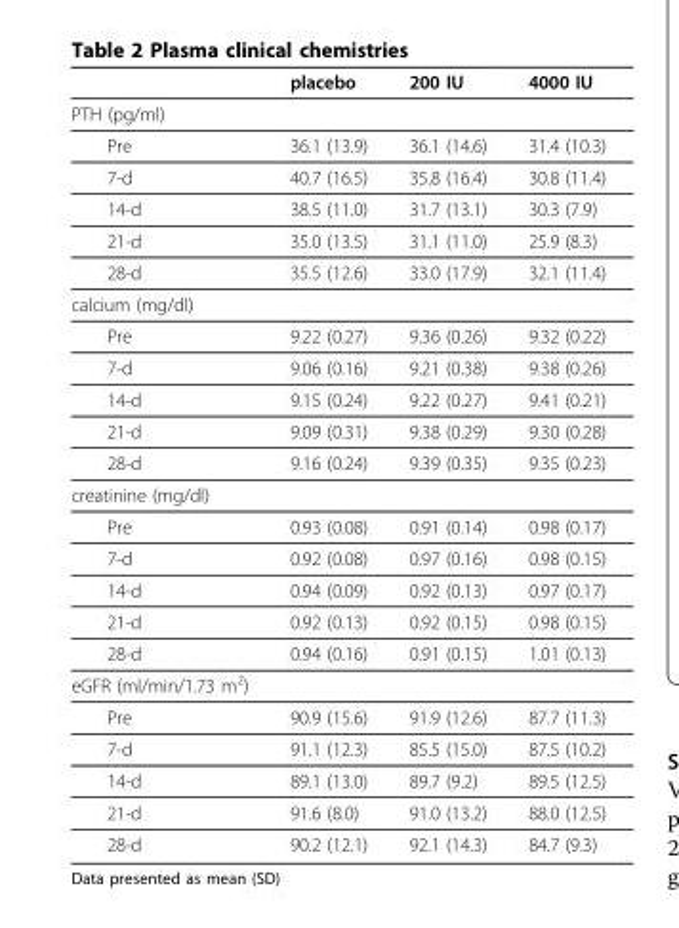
<table><thead><tr><td></td><td>placebo</td><td>200 IU</td><td>4000 IU</td></tr></thead><tbody><tr><td colspan="4">PTH (pg/ml)</td></tr><tr><td>Pre</td><td>36.1 (13.9)</td><td>36.1 (14.6)</td><td>31.4 (10.3)</td></tr><tr><td>7-d</td><td>40.7 (16.5)</td><td>35.8 (16.4)</td><td>30.8 (11.4)</td></tr><tr><td>14-d</td><td>38.5 (11.0)</td><td>31.7 (13.1)</td><td>30.3 (7.9)</td></tr><tr><td>21-d</td><td>35.0 (13.5)</td><td>31.1 (11.0)</td><td>25.9 (8.3)</td></tr><tr><td>28-d</td><td>35.5 (12.6)</td><td>33.0 (17.9)</td><td>32.1 (11.4)</td></tr><tr><td colspan="4">calcium (mg/dl)</td></tr><tr><td>Pre</td><td>9.22 (0.27)</td><td>9.36 (0.26)</td><td>9.32 (0.22)</td></tr><tr><td>7-d</td><td>9.06 (0.16)</td><td>9.21 (0.38)</td><td>9.38 (0.26)</td></tr><tr><td>14-d</td><td>9.15 (0.24)</td><td>9.22 (0.27)</td><td>9.41 (0.21)</td></tr><tr><td>21-d</td><td>9.09 (0.31)</td><td>9.38 (0.29)</td><td>9.30 (0.28)</td></tr><tr><td>28-d</td><td>9.16 (0.24)</td><td>9.39 (0.35)</td><td>9.35 (0.23)</td></tr><tr><td colspan="4">creatinine (mg/dl)</td></tr><tr><td>Pre</td><td>0.93 (0.08)</td><td>0.91 (0.14)</td><td>0.98 (0.17)</td></tr><tr><td>7-d</td><td>0.92 (0.08)</td><td>0.97 (0.16)</td><td>0.98 (0.15)</td></tr><tr><td>14-d</td><td>0.94 (0.09)</td><td>0.92 (0.13)</td><td>0.97 (0.17)</td></tr><tr><td>21-d</td><td>0.92 (0.13)</td><td>0.92 (0.15)</td><td>0.98 (0.15)</td></tr><tr><td>28-d</td><td>0.94 (0.16)</td><td>0.91 (0.15)</td><td>1.01 (0.13)</td></tr><tr><td colspan="4">eGFR (ml/min/1.73 m<sup>2</sup>)</td></tr><tr><td>Pre</td><td>90.9 (15.6)</td><td>91.9 (12.6)</td><td>87.7 (11.3)</td></tr><tr><td>7-d</td><td>91.1 (12.3)</td><td>85.5 (15.0)</td><td>87.5 (10.2)</td></tr><tr><td>14-d</td><td>89.1 (13.0)</td><td>89.7 (9.2)</td><td>89.5 (12.5)</td></tr><tr><td>21-d</td><td>91.6 (8.0)</td><td>91.0 (13.2)</td><td>88.0 (12.5)</td></tr><tr><td>28-d</td><td>90.2 (12.1)</td><td>92.1 (14.3)</td><td>84.7 (9.3)</td></tr></tbody></table>